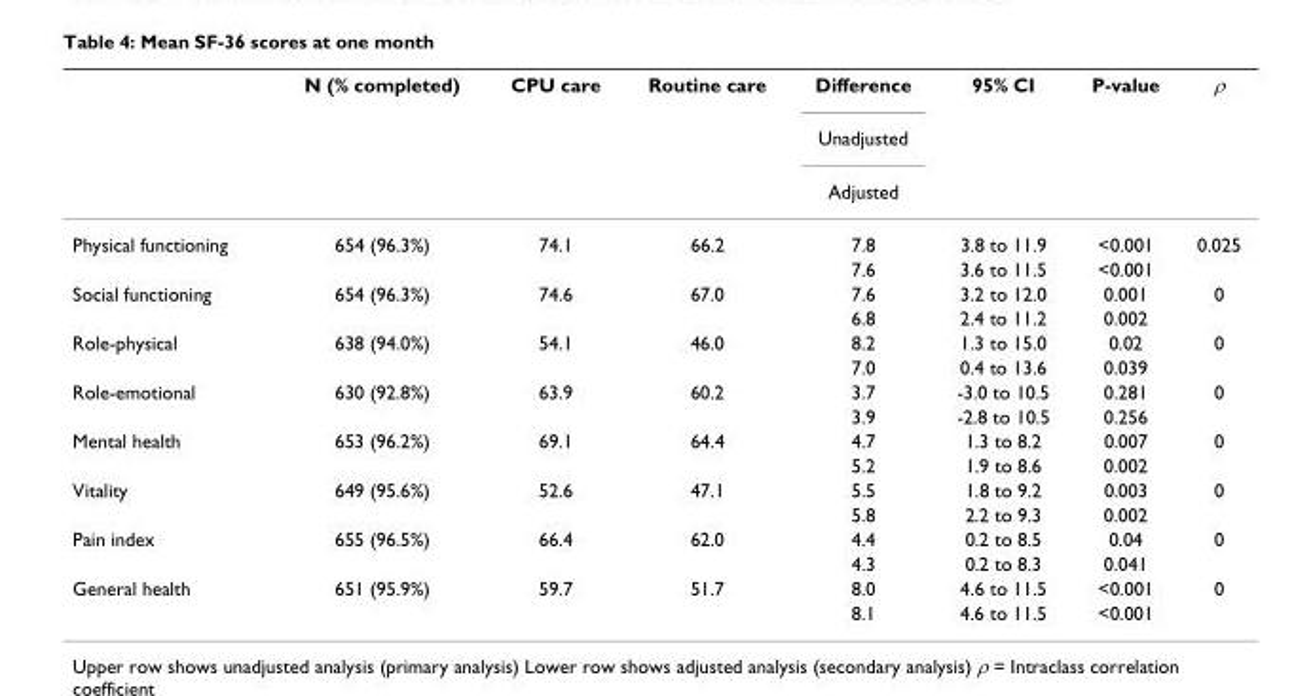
<table><thead><tr><td rowspan="3"></td><td rowspan="3">N (% completed)</td><td rowspan="3">CPU care</td><td rowspan="3">Routine care</td><td rowspan="3">Difference Unadjusted Adjusted</td><td rowspan="3">95% CI</td><td rowspan="3">P-value</td><td rowspan="3">ρ</td></tr><tr></tr><tr></tr></thead><tbody><tr><td rowspan="2">Physical functioning</td><td>654 (96.3%)</td><td>74.1</td><td>66.2</td><td>7.8</td><td>3.8 to 11.9</td><td>&lt;0.001</td><td>0.025</td></tr><tr><td></td><td></td><td></td><td>7.6</td><td>3.6 to 11.5</td><td>&lt;0.001</td><td></td></tr><tr><td rowspan="2">Social functioning</td><td>654 (96.3%)</td><td>74.6</td><td>67.0</td><td>7.6</td><td>3.2 to 12.0</td><td>0.001</td><td>0</td></tr><tr><td></td><td></td><td></td><td>6.8</td><td>2.4 to 11.2</td><td>0.002</td><td></td></tr><tr><td rowspan="2">Role-physical</td><td>638 (94.0%)</td><td>54.1</td><td>46.0</td><td>8.2</td><td>1.3 to 15.0</td><td>0.02</td><td>0</td></tr><tr><td></td><td></td><td></td><td>7.0</td><td>0.4 to 13.6</td><td>0.039</td><td></td></tr><tr><td rowspan="2">Role-emotional</td><td>630 (92.8%)</td><td>63.9</td><td>60.2</td><td>3.7</td><td>-3.0 to 10.5</td><td>0.281</td><td>0</td></tr><tr><td></td><td></td><td></td><td>3.9</td><td>-2.8 to 10.5</td><td>0.256</td><td></td></tr><tr><td rowspan="2">Mental health</td><td>653 (96.2%)</td><td>69.1</td><td>64.4</td><td>4.7</td><td>1.3 to 8.2</td><td>0.007</td><td>0</td></tr><tr><td></td><td></td><td></td><td>5.2</td><td>1.9 to 8.6</td><td>0.002</td><td></td></tr><tr><td rowspan="2">Vitality</td><td>649 (95.6%)</td><td>52.6</td><td>47.1</td><td>5.5</td><td>1.8 to 9.2</td><td>0.003</td><td>0</td></tr><tr><td></td><td></td><td></td><td>5.8</td><td>2.2 to 9.3</td><td>0.002</td><td></td></tr><tr><td rowspan="2">Pain index</td><td>655 (96.5%)</td><td>66.4</td><td>62.0</td><td>4.4</td><td>0.2 to 8.5</td><td>0.04</td><td>0</td></tr><tr><td></td><td></td><td></td><td>4.3</td><td>0.2 to 8.3</td><td>0.041</td><td></td></tr><tr><td rowspan="2">General health</td><td>651 (95.9%)</td><td>59.7</td><td>51.7</td><td>8.0</td><td>4.6 to 11.5</td><td>&lt;0.001</td><td>0</td></tr><tr><td></td><td></td><td></td><td>8.1</td><td>4.6 to 11.5</td><td>&lt;0.001</td><td></td></tr></tbody></table>